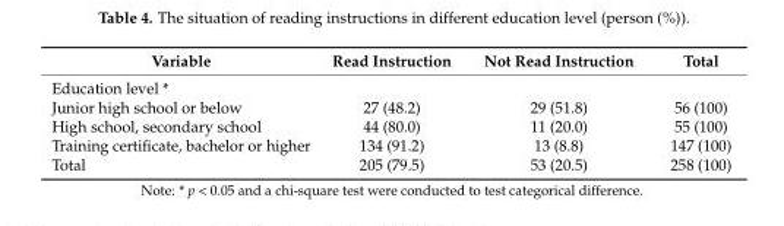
<table><thead><tr><td>Variable</td><td>Read Instruction</td><td>Not Read Instruction</td><td>Total</td></tr></thead><tbody><tr><td colspan="4">Education level *</td></tr><tr><td>Junior high school or below</td><td>27 (48.2)</td><td>29 (51.8)</td><td>56 (100)</td></tr><tr><td>High school, secondary school</td><td>44 (80.0)</td><td>11 (20.0)</td><td>55 (100)</td></tr><tr><td>Training certificate, bachelor or higher</td><td>134 (91.2)</td><td>13 (8.8)</td><td>147 (100)</td></tr><tr><td>Total</td><td>205 (79.5)</td><td>53 (20.5)</td><td>258 (100)</td></tr></tbody></table>